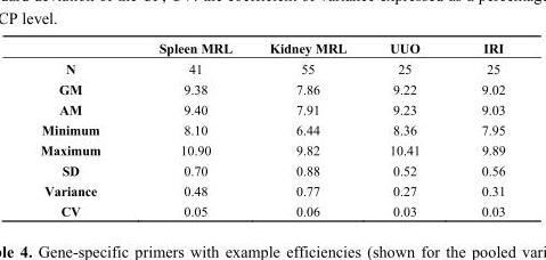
<table><thead><tr><td></td><td>Spleen MRL</td><td>Kidney MRL</td><td>UUO</td><td>IRI</td></tr></thead><tbody><tr><td>N</td><td>41</td><td>55</td><td>25</td><td>25</td></tr><tr><td>GM</td><td>9.38</td><td>7.86</td><td>9.22</td><td>9.02</td></tr><tr><td>AM</td><td>9.40</td><td>7.91</td><td>9.23</td><td>9.03</td></tr><tr><td>Minimum</td><td>8.10</td><td>6.44</td><td>8.36</td><td>7.95</td></tr><tr><td>Maximum</td><td>10.90</td><td>9.82</td><td>10.41</td><td>9.89</td></tr><tr><td>SD</td><td>0.70</td><td>0.88</td><td>0.52</td><td>0.56</td></tr><tr><td>Variance</td><td>0.48</td><td>0.77</td><td>0.27</td><td>0.31</td></tr><tr><td>CV</td><td>0.05</td><td>0.06</td><td>0.03</td><td>0.03</td></tr></tbody></table>